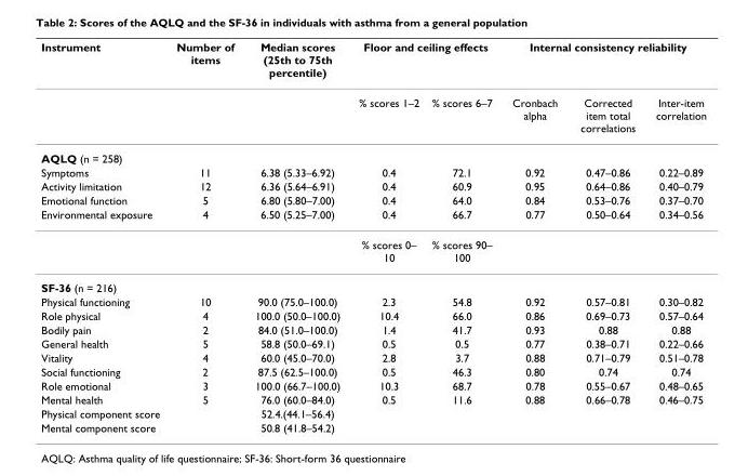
<table><thead><tr><td rowspan="2">Instrument</td><td rowspan="2">Number of items</td><td rowspan="2">Median scores (25th to 75th percentile)</td><td colspan="2">Floor and ceiling effects</td><td colspan="3">Internal consistency reliability</td></tr><tr><td>% scores 1–2</td><td>% scores 6–7</td><td>Cronbach alpha</td><td>Corrected item total correlations</td><td>Inter-item correlation</td></tr></thead><tbody><tr><td colspan="8">AQLQ (n = 258)</td></tr><tr><td>Symptoms</td><td>11</td><td>6.38 (5.33–6.92)</td><td>0.4</td><td>72.1</td><td>0.92</td><td>0.47–0.86</td><td>0.22–0.89</td></tr><tr><td>Activity limitation</td><td>12</td><td>6.36 (5.64–6.91)</td><td>0.4</td><td>60.9</td><td>0.95</td><td>0.64–0.86</td><td>0.40–0.79</td></tr><tr><td>Emotional function</td><td>5</td><td>6.80 (5.80–7.00)</td><td>0.4</td><td>64.0</td><td>0.84</td><td>0.53–0.76</td><td>0.37–0.70</td></tr><tr><td rowspan="2">Environmental exposure</td><td>4</td><td>6.50 (5.25–7.00)</td><td>0.4</td><td>66.7</td><td>0.77</td><td>0.50–0.64</td><td>0.34–0.56</td></tr><tr><td></td><td></td><td>% scores 0– 10</td><td>% scores 90– 100</td><td></td><td></td><td></td></tr><tr><td colspan="8">SF-36 (n = 216)</td></tr><tr><td>Physical functioning</td><td>10</td><td>90.0 (75.0–100.0)</td><td>2.3</td><td>54.8</td><td>0.92</td><td>0.57–0.81</td><td>0.30–0.82</td></tr><tr><td>Role physical</td><td>4</td><td>100.0 (50.0–100.0)</td><td>10.4</td><td>66.0</td><td>0.86</td><td>0.69–0.73</td><td>0.57–0.64</td></tr><tr><td>Bodily pain</td><td>2</td><td>84.0 (51.0–100.0)</td><td>1.4</td><td>41.7</td><td>0.93</td><td>0.88</td><td>0.88</td></tr><tr><td>General health</td><td>5</td><td>58.8 (50.0–69.1)</td><td>0.5</td><td>0.5</td><td>0.77</td><td>0.38–0.71</td><td>0.22–0.66</td></tr><tr><td>Vitality</td><td>4</td><td>60.0 (45.0–70.0)</td><td>2.8</td><td>3.7</td><td>0.88</td><td>0.71–0.79</td><td>0.51–0.78</td></tr><tr><td>Social functioning</td><td>2</td><td>87.5 (62.5–100.0)</td><td>0.5</td><td>46.3</td><td>0.80</td><td>0.74</td><td>0.74</td></tr><tr><td>Role emotional</td><td>3</td><td>100.0 (66.7–100.0)</td><td>10.3</td><td>68.7</td><td>0.78</td><td>0.55–0.67</td><td>0.48–0.65</td></tr><tr><td>Mental health</td><td>5</td><td>76.0 (60.0–84.0)</td><td>0.5</td><td>11.6</td><td>0.88</td><td>0.66–0.78</td><td>0.46–0.75</td></tr><tr><td>Physical component score</td><td></td><td>52.4.(44.1–56.4)</td><td></td><td></td><td></td><td></td><td></td></tr><tr><td>Mental component score</td><td></td><td>50.8 (41.8–54.2)</td><td></td><td></td><td></td><td></td><td></td></tr></tbody></table>